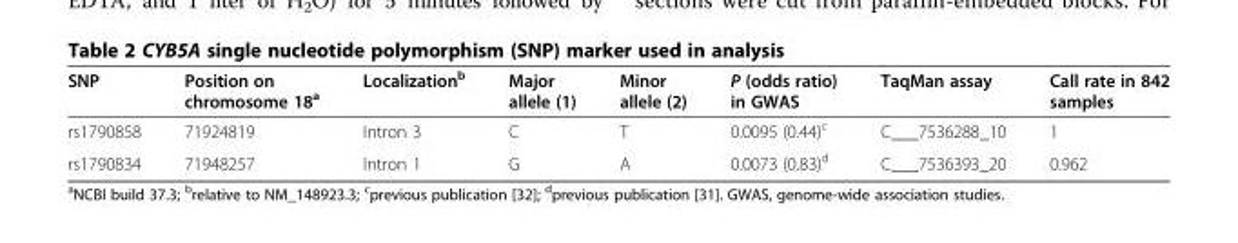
<table><thead><tr><td>SNP</td><td>Position on chromosome 18<sup>a</sup></td><td>Localization<sup>b</sup></td><td>Major allele (1)</td><td>Minor allele (2)</td><td>P (odds ratio) in GWAS</td><td>TaqMan assay</td><td>Call rate in 842 samples</td></tr></thead><tbody><tr><td>rs1790858</td><td>71924819</td><td>Intron 3</td><td>C</td><td>T</td><td>0.0095 (0.44)<sup>c</sup></td><td>C___7536288_10</td><td>1</td></tr><tr><td>rs1790834</td><td>71948257</td><td>Intron 1</td><td>G</td><td>A</td><td>0.0073 (0.83)<sup>d</sup></td><td>C___7536393_20</td><td>0.962</td></tr></tbody></table>